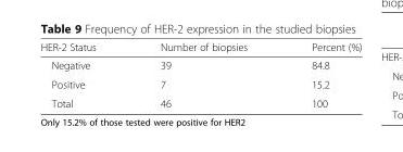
<table><thead><tr><td>HER-2 Status</td><td>Number of biopsies</td><td>Percent (%)</td></tr></thead><tbody><tr><td>Negative</td><td>39</td><td>84.8</td></tr><tr><td>Positive</td><td>7</td><td>15.2</td></tr><tr><td>Total</td><td>46</td><td>100</td></tr></tbody></table>